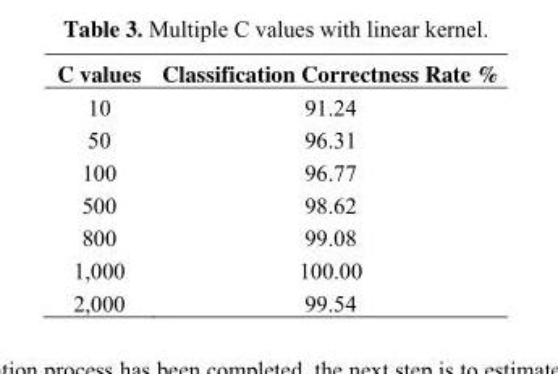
<table><thead><tr><td>C values</td><td>Classification Correctness Rate %</td></tr></thead><tbody><tr><td>10</td><td>91.24</td></tr><tr><td>50</td><td>96.31</td></tr><tr><td>100</td><td>96.77</td></tr><tr><td>500</td><td>98.62</td></tr><tr><td>800</td><td>99.08</td></tr><tr><td>1,000</td><td>100.00</td></tr><tr><td>2,000</td><td>99.54</td></tr></tbody></table>